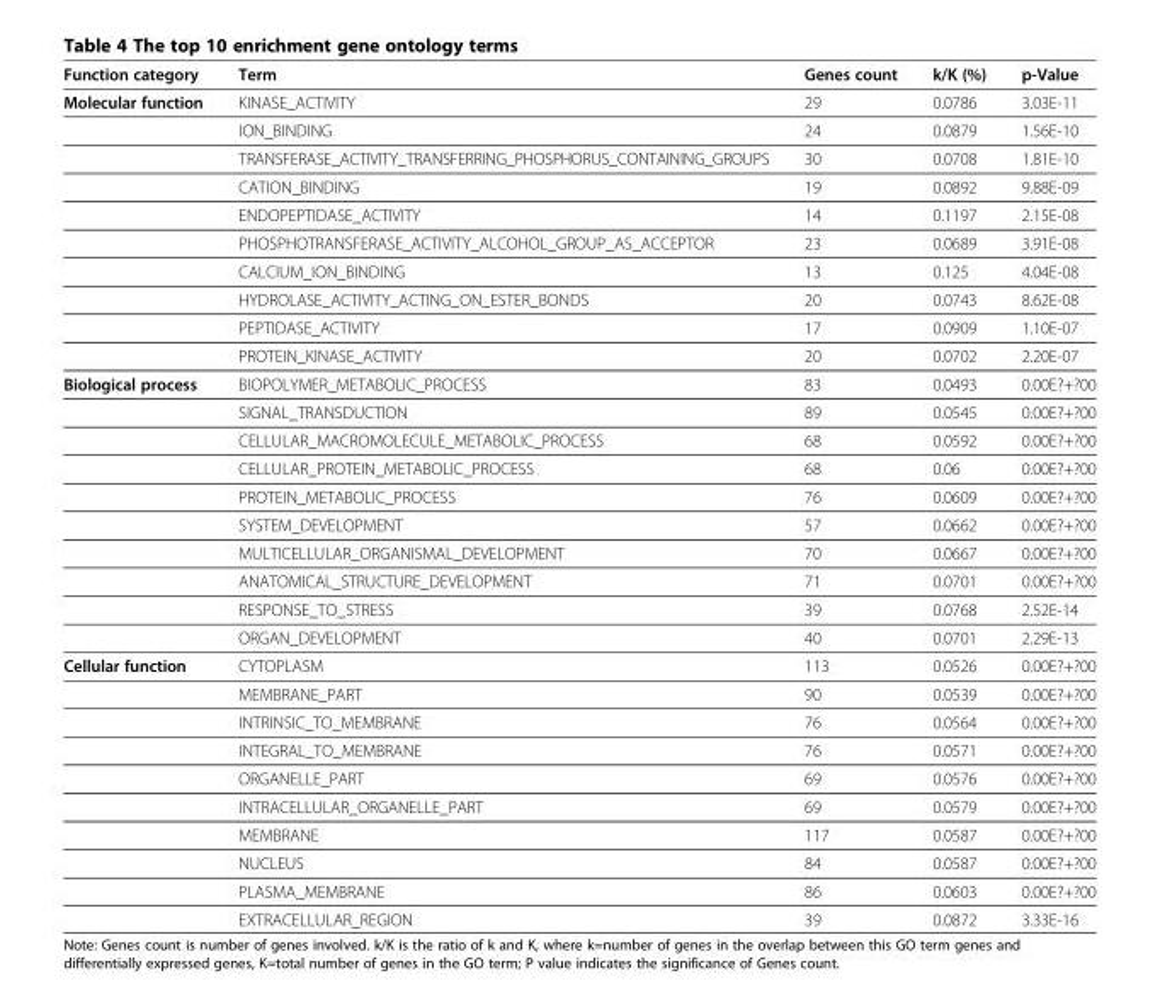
<table><thead><tr><td>Function category</td><td>Term</td><td>Genes count</td><td>k/K (%)</td><td>p-Value</td></tr></thead><tbody><tr><td rowspan="10">Molecular function</td><td>KINASE_ACTIVITY</td><td>29</td><td>0.0786</td><td>3.03E-11</td></tr><tr><td>ION_BINDING</td><td>24</td><td>0.0879</td><td>1.56E-10</td></tr><tr><td>TRANSFERASE_ACTIVITY_TRANSFERRING_PHOSPHORUS_CONTAINING_GROUPS</td><td>30</td><td>0.0708</td><td>1.81E-10</td></tr><tr><td>CATION_BINDING</td><td>19</td><td>0.0892</td><td>9.88E-09</td></tr><tr><td>ENDOPEPTIDASE_ACTIVITY</td><td>14</td><td>0.1197</td><td>2.15E-08</td></tr><tr><td>PHOSPHOTRANSFERASE_ACTIVITY_ALCOHOL_GROUP_AS_ACCEPTOR</td><td>23</td><td>0.0689</td><td>3.91E-08</td></tr><tr><td>CALCIUM_ION_BINDING</td><td>13</td><td>0.125</td><td>4.04E-08</td></tr><tr><td>HYDROLASE_ACTIVITY_ACTING_ON_ESTER_BONDS</td><td>20</td><td>0.0743</td><td>8.62E-08</td></tr><tr><td>PEPTIDASE_ACTIVITY</td><td>17</td><td>0.0909</td><td>1.10E-07</td></tr><tr><td>PROTEIN_KINASE_ACTIVITY</td><td>20</td><td>0.0702</td><td>2.20E-07</td></tr><tr><td rowspan="10">Biological process</td><td>BIOPOLYMER_METABOLIC_PROCESS</td><td>83</td><td>0.0493</td><td>0.00E?+?00</td></tr><tr><td>SIGNAL_TRANSDUCTION</td><td>89</td><td>0.0545</td><td>0.00E?+?00</td></tr><tr><td>CELLULAR_MACROMOLECULE_METABOLIC_PROCESS</td><td>68</td><td>0.0592</td><td>0.00E?+?00</td></tr><tr><td>CELLULAR_PROTEIN_METABOLIC_PROCESS</td><td>68</td><td>0.06</td><td>0.00E?+?00</td></tr><tr><td>PROTEIN_METABOLIC_PROCESS</td><td>76</td><td>0.0609</td><td>0.00E?+?00</td></tr><tr><td>SYSTEM_DEVELOPMENT</td><td>57</td><td>0.0662</td><td>0.00E?+?00</td></tr><tr><td>MULTICELLULAR_ORGANISMAL_DEVELOPMENT</td><td>70</td><td>0.0667</td><td>0.00E?+?00</td></tr><tr><td>ANATOMICAL_STRUCTURE_DEVELOPMENT</td><td>71</td><td>0.0701</td><td>0.00E?+?00</td></tr><tr><td>RESPONSE_TO_STRESS</td><td>39</td><td>0.0768</td><td>2.52E-14</td></tr><tr><td>ORGAN_DEVELOPMENT</td><td>40</td><td>0.0701</td><td>2.29E-13</td></tr><tr><td rowspan="10">Cellular function</td><td>CYTOPLASM</td><td>113</td><td>0.0526</td><td>0.00E?+?00</td></tr><tr><td>MEMBRANE_PART</td><td>90</td><td>0.0539</td><td>0.00E?+?00</td></tr><tr><td>INTRINSIC_TO_MEMBRANE</td><td>76</td><td>0.0564</td><td>0.00E?+?00</td></tr><tr><td>INTEGRAL_TO_MEMBRANE</td><td>76</td><td>0.0571</td><td>0.00E?+?00</td></tr><tr><td>ORGANELLE_PART</td><td>69</td><td>0.0576</td><td>0.00E?+?00</td></tr><tr><td>INTRACELLULAR_ORGANELLE_PART</td><td>69</td><td>0.0579</td><td>0.00E?+?00</td></tr><tr><td>MEMBRANE</td><td>117</td><td>0.0587</td><td>0.00E?+?00</td></tr><tr><td>NUCLEUS</td><td>84</td><td>0.0587</td><td>0.00E?+?00</td></tr><tr><td>PLASMA_MEMBRANE</td><td>86</td><td>0.0603</td><td>0.00E?+?00</td></tr><tr><td>EXTRACELLULAR_REGION</td><td>39</td><td>0.0872</td><td>3.33E-16</td></tr></tbody></table>